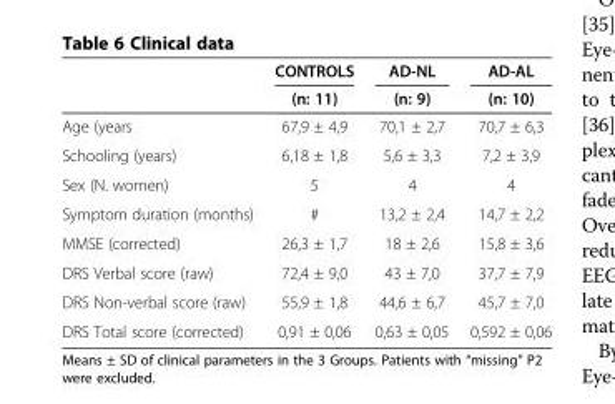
<table><thead><tr><td rowspan="2"></td><td rowspan="2">CONTROLS (n: 11)</td><td rowspan="2">AD-NL (n: 9)</td><td rowspan="2">AD-AL (n: 10)</td></tr><tr></tr></thead><tbody><tr><td>Age (years</td><td>67,9 ± 4,9</td><td>70,1 ± 2,7</td><td>70,7 ± 6,3</td></tr><tr><td>Schooling (years)</td><td>6,18 ± 1,8</td><td>5,6 ± 3,3</td><td>7,2 ± 3,9</td></tr><tr><td>Sex (N. women)</td><td>5</td><td>4</td><td>4</td></tr><tr><td>Symptom duration (months)</td><td>#</td><td>13,2 ± 2,4</td><td>14,7 ± 2,2</td></tr><tr><td>MMSE (corrected)</td><td>26,3 ± 1,7</td><td>18 ± 2,6</td><td>15,8 ± 3,6</td></tr><tr><td>DRS Verbal score (raw)</td><td>72,4 ± 9,0</td><td>43 ± 7,0</td><td>37,7 ± 7,9</td></tr><tr><td>DRS Non-verbal score (raw)</td><td>55,9 ± 1,8</td><td>44,6 ± 6,7</td><td>45,7 ± 7,0</td></tr><tr><td>DRS Total score (corrected)</td><td>0,91 ± 0,06</td><td>0,63 ± 0,05</td><td>0,592 ± 0,06</td></tr></tbody></table>